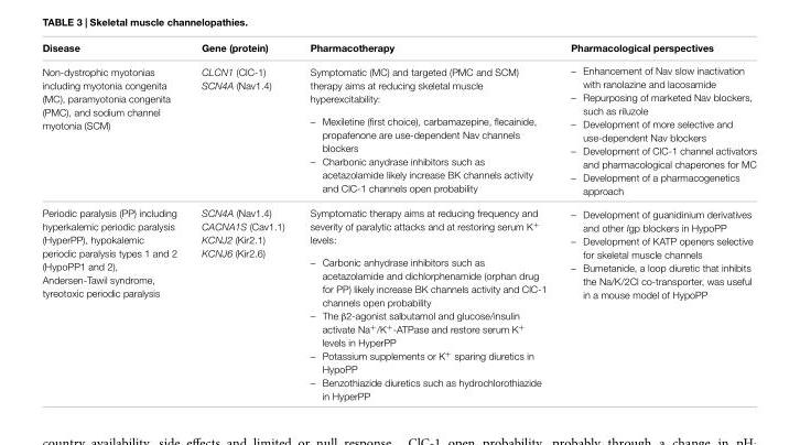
<table><thead><tr><td>Disease</td><td>Gene (protein)</td><td>Pharmacotherapy</td><td>Pharmacological perspectives</td></tr></thead><tbody><tr><td>Non-dystrophic myotonias including myotonia congenita (MC), paramyotonia congenita (PMC), and sodium channel myotonia (SCM)</td><td>CLCN1 (ClC-1) SCN4A (Nav1.4)</td><td>Symptomatic (MC) and targeted (PMC and SCM) therapy aims at reducing skeletal muscle hyperexcitability: – Mexiletine (first choice), carbamazepine, flecainide, propafenone are use-dependent Nav channels blockers – Charbonic anydrase inhibitors such as acetazolamide likely increase BK channels activity and ClC-1 channels open probability</td><td>– Enhancement of Nav slow inactivation with ranolazine and lacosamide – Repurposing of marketed Nav blockers, such as riluzole – Development of more selective and use-dependent Nav blockers – Development of ClC-1 channel activators and pharmacological chaperones for MC – Development of a pharmacogenetics approach</td></tr><tr><td>Periodic paralysis (PP) including hyperkalemic periodic paralysis (HyperPP), hypokalemic periodic paralysis types 1 and 2 (HypoPP1 and 2), Andersen-Tawil syndrome, tyreotoxic periodic paralysis</td><td>SCN4A (Nav1.4) CACNA1S (Cav1.1) KCNJ2 (Kir2.1) KCNJ6 (Kir2.6)</td><td>Symptomatic therapy aims at reducing frequency and severity of paralytic attacks and at restoring serum K<sup>+</sup> levels: – Carbonic anhydrase inhibitors such as acetazolamide and dichlorphenamide (orphan drug for PP) likely increase BK channels activity and ClC-1 channels open probability – The β2-agonist salbutamol and glucose/insulin activate Na<sup>+</sup>/K<sup>+</sup>-ATPase and restore serum K<sup>+</sup> levels in HyperPP – Potassium supplements or K<sup>+</sup> sparing diuretics in HypoPP – Benzothiazide diuretics such as hydrochlorothiazide in HyperPP</td><td>– Development of guanidinium derivatives and other Igp blockers in HypoPP – Development of KATP openers selective for skeletal muscle channels – Bumetanide, a loop diuretic that inhibits the Na/K/2Cl co-transporter, was useful in a mouse model of HypoPP</td></tr></tbody></table>